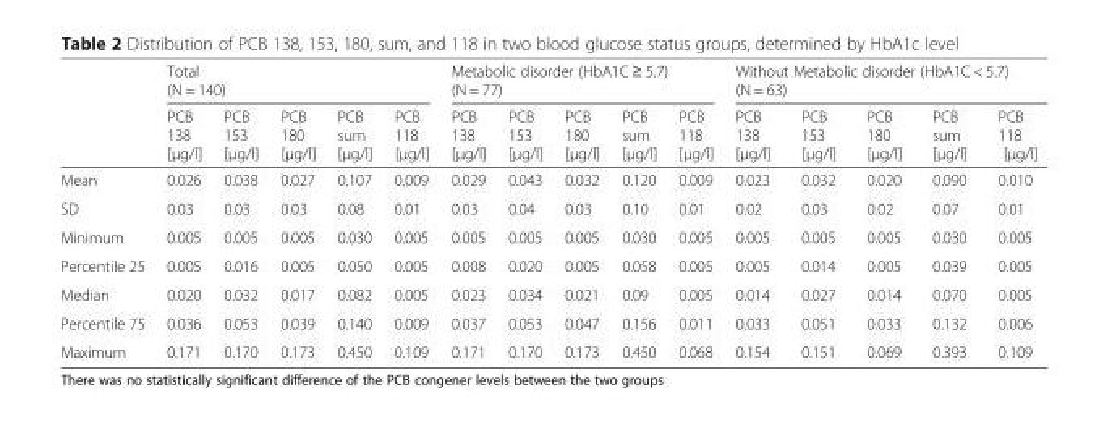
<table><thead><tr><td rowspan="2"></td><td colspan="5">Total (N = 140)</td><td colspan="5">Metabolic disorder (HbA1C ≥ 5.7) (N = 77)</td><td colspan="5">Without Metabolic disorder (HbA1C &lt; 5.7) (N = 63)</td></tr><tr><td>PCB 138 [μg/l]</td><td>PCB 153 [μg/l]</td><td>PCB 180 [μg/l]</td><td>PCB sum [μg/l]</td><td>PCB 118 [μg/l]</td><td>PCB 138 [μg/l]</td><td>PCB 153 [μg/l]</td><td>PCB 180 [μg/l]</td><td>PCB sum [μg/l]</td><td>PCB 118 [μg/l]</td><td>PCB 138 [μg/l]</td><td>PCB 153 [μg/l]</td><td>PCB 180 [μg/l]</td><td>PCB sum [μg/l]</td><td>PCB 118 [μg/l]</td></tr></thead><tbody><tr><td>Mean</td><td>0.026</td><td>0.038</td><td>0.027</td><td>0.107</td><td>0.009</td><td>0.029</td><td>0.043</td><td>0.032</td><td>0.120</td><td>0.009</td><td>0.023</td><td>0.032</td><td>0.020</td><td>0.090</td><td>0.010</td></tr><tr><td>SD</td><td>0.03</td><td>0.03</td><td>0.03</td><td>0.08</td><td>0.01</td><td>0.03</td><td>0.04</td><td>0.03</td><td>0.10</td><td>0.01</td><td>0.02</td><td>0.03</td><td>0.02</td><td>0.07</td><td>0.01</td></tr><tr><td>Minimum</td><td>0.005</td><td>0.005</td><td>0.005</td><td>0.030</td><td>0.005</td><td>0.005</td><td>0.005</td><td>0.005</td><td>0.030</td><td>0.005</td><td>0.005</td><td>0.005</td><td>0.005</td><td>0.030</td><td>0.005</td></tr><tr><td>Percentile 25</td><td>0.005</td><td>0.016</td><td>0.005</td><td>0.050</td><td>0.005</td><td>0.008</td><td>0.020</td><td>0.005</td><td>0.058</td><td>0.005</td><td>0.005</td><td>0.014</td><td>0.005</td><td>0.039</td><td>0.005</td></tr><tr><td>Median</td><td>0.020</td><td>0.032</td><td>0.017</td><td>0.082</td><td>0.005</td><td>0.023</td><td>0.034</td><td>0.021</td><td>0.09</td><td>0.005</td><td>0.014</td><td>0.027</td><td>0.014</td><td>0.070</td><td>0.005</td></tr><tr><td>Percentile 75</td><td>0.036</td><td>0.053</td><td>0.039</td><td>0.140</td><td>0.009</td><td>0.037</td><td>0.053</td><td>0.047</td><td>0.156</td><td>0.011</td><td>0.033</td><td>0.051</td><td>0.033</td><td>0.132</td><td>0.006</td></tr><tr><td>Maximum</td><td>0.171</td><td>0.170</td><td>0.173</td><td>0.450</td><td>0.109</td><td>0.171</td><td>0.170</td><td>0.173</td><td>0.450</td><td>0.068</td><td>0.154</td><td>0.151</td><td>0.069</td><td>0.393</td><td>0.109</td></tr></tbody></table>